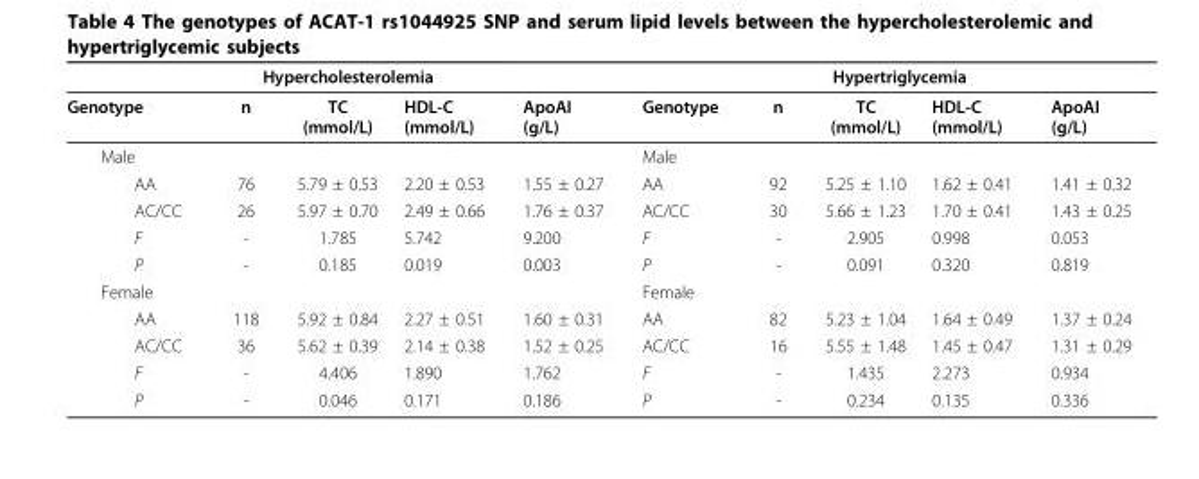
<table><thead><tr><td colspan="5">Hypercholesterolemia</td><td colspan="5">Hypertriglycemia</td></tr><tr><td>Genotype</td><td>n</td><td>TC (mmol/L)</td><td>HDL-C (mmol/L)</td><td>ApoAI (g/L)</td><td>Genotype</td><td>n</td><td>TC (mmol/L)</td><td>HDL-C (mmol/L)</td><td>ApoAI (g/L)</td></tr></thead><tbody><tr><td>Male</td><td></td><td></td><td></td><td></td><td>Male</td><td></td><td></td><td></td><td></td></tr><tr><td>AA</td><td>76</td><td>5.79 ± 0.53</td><td>2.20 ± 0.53</td><td>1.55 ± 0.27</td><td>AA</td><td>92</td><td>5.25 ± 1.10</td><td>1.62 ± 0.41</td><td>1.41 ± 0.32</td></tr><tr><td>AC/CC</td><td>26</td><td>5.97 ± 0.70</td><td>2.49 ± 0.66</td><td>1.76 ± 0.37</td><td>AC/CC</td><td>30</td><td>5.66 ± 1.23</td><td>1.70 ± 0.41</td><td>1.43 ± 0.25</td></tr><tr><td>F</td><td>-</td><td>1.785</td><td>5.742</td><td>9.200</td><td>F</td><td>-</td><td>2.905</td><td>0.998</td><td>0.053</td></tr><tr><td>P</td><td>-</td><td>0.185</td><td>0.019</td><td>0.003</td><td>P</td><td>-</td><td>0.091</td><td>0.320</td><td>0.819</td></tr><tr><td>Female</td><td></td><td></td><td></td><td></td><td>Female</td><td></td><td></td><td></td><td></td></tr><tr><td>AA</td><td>118</td><td>5.92 ± 0.84</td><td>2.27 ± 0.51</td><td>1.60 ± 0.31</td><td>AA</td><td>82</td><td>5.23 ± 1.04</td><td>1.64 ± 0.49</td><td>1.37 ± 0.24</td></tr><tr><td>AC/CC</td><td>36</td><td>5.62 ± 0.39</td><td>2.14 ± 0.38</td><td>1.52 ± 0.25</td><td>AC/CC</td><td>16</td><td>5.55 ± 1.48</td><td>1.45 ± 0.47</td><td>1.31 ± 0.29</td></tr><tr><td>F</td><td>-</td><td>4.406</td><td>1.890</td><td>1.762</td><td>F</td><td>-</td><td>1.435</td><td>2.273</td><td>0.934</td></tr><tr><td>P</td><td>-</td><td>0.046</td><td>0.171</td><td>0.186</td><td>P</td><td>-</td><td>0.234</td><td>0.135</td><td>0.336</td></tr></tbody></table>